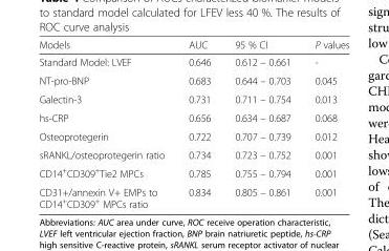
<table><thead><tr><td>Models</td><td>AUC</td><td>95 % CI</td><td>P values</td></tr></thead><tbody><tr><td>Standard Model: LVEF</td><td>0.646</td><td>0.612 – 0.661</td><td>-</td></tr><tr><td>NT-pro-BNP</td><td>0.683</td><td>0.644 – 0.703</td><td>0.045</td></tr><tr><td>Galectin-3</td><td>0.731</td><td>0.711 – 0.754</td><td>0.013</td></tr><tr><td>hs-CRP</td><td>0.656</td><td>0.634 – 0.687</td><td>0.068</td></tr><tr><td>Osteoprotegerin</td><td>0.722</td><td>0.707 – 0.739</td><td>0.012</td></tr><tr><td>sRANKL/osteoprotegerin ratio</td><td>0.734</td><td>0.723 – 0.752</td><td>0.001</td></tr><tr><td>CD14+CD309+Tie2 MPCs</td><td>0.785</td><td>0.755 – 0.794</td><td>0.001</td></tr><tr><td>CD31+/annexin V+ EMPs to CD14+CD309+ MPCs ratio</td><td>0.834</td><td>0.805 – 0.861</td><td>0.001</td></tr></tbody></table>